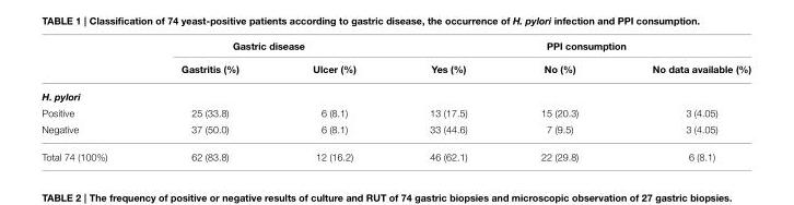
<table><thead><tr><td rowspan="2"></td><td colspan="2">Gastric disease</td><td colspan="3">PPI consumption</td></tr><tr><td>Gastritis (%)</td><td>Ulcer (%)</td><td>Yes (%)</td><td>No (%)</td><td>No data available (%)</td></tr></thead><tbody><tr><td colspan="6">H. pylori</td></tr><tr><td>Positive</td><td>25 (33.8)</td><td>6 (8.1)</td><td>13 (17.5)</td><td>15 (20.3)</td><td>3 (4.05)</td></tr><tr><td>Negative</td><td>37 (50.0)</td><td>6 (8.1)</td><td>33 (44.6)</td><td>7 (9.5)</td><td>3 (4.05)</td></tr><tr><td>Total 74 (100%)</td><td>62 (83.8)</td><td>12 (16.2)</td><td>46 (62.1)</td><td>22 (29.8)</td><td>6 (8.1)</td></tr></tbody></table>